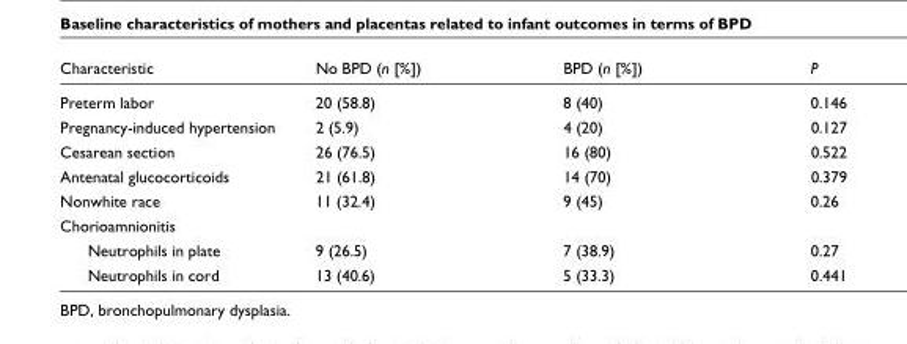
<table><thead><tr><td>Characteristic</td><td>No BPD (n [%])</td><td>BPD (n [%])</td><td>P</td></tr></thead><tbody><tr><td>Preterm labor</td><td>20 (58.8)</td><td>8 (40)</td><td>0.146</td></tr><tr><td>Pregnancy-induced hypertension</td><td>2 (5.9)</td><td>4 (20)</td><td>0.127</td></tr><tr><td>Cesarean section</td><td>26 (76.5)</td><td>16 (80)</td><td>0.522</td></tr><tr><td>Antenatal glucocorticoids</td><td>21 (61.8)</td><td>14 (70)</td><td>0.379</td></tr><tr><td>Nonwhite race</td><td>11 (32.4)</td><td>9 (45)</td><td>0.26</td></tr><tr><td colspan="4">Chorioamnionitis</td></tr><tr><td>Neutrophils in plate</td><td>9 (26.5)</td><td>7 (38.9)</td><td>0.27</td></tr><tr><td>Neutrophils in cord</td><td>13 (40.6)</td><td>5 (33.3)</td><td>0.441</td></tr></tbody></table>